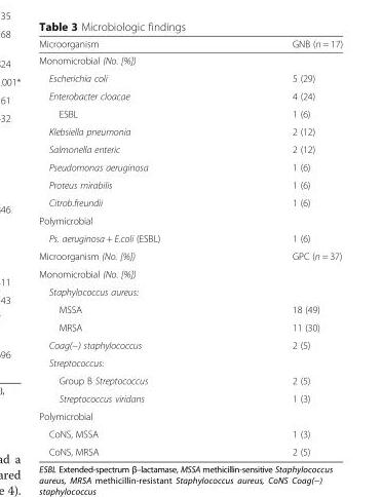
<table><thead><tr><td>Microorganism</td><td>GNB (n = 17)</td></tr></thead><tbody><tr><td colspan="2">Monomicrobial (No. [%])</td></tr><tr><td>Escherichia coli</td><td>5 (29)</td></tr><tr><td>Enterobacter cloacae</td><td>4 (24)</td></tr><tr><td>ESBL</td><td>1 (6)</td></tr><tr><td>Klebsiella pneumonia</td><td>2 (12)</td></tr><tr><td>Salmonella enteric</td><td>2 (12)</td></tr><tr><td>Pseudomonas aeruginosa</td><td>1 (6)</td></tr><tr><td>Proteus mirabilis</td><td>1 (6)</td></tr><tr><td>Citrob.freundii</td><td>1 (6)</td></tr><tr><td colspan="2">Polymicrobial</td></tr><tr><td>Ps. aeruginosa + E.coli (ESBL)</td><td>1 (6)</td></tr><tr><td>Microorganism (No. [%])</td><td>GPC (n = 37)</td></tr><tr><td colspan="2">Monomicrobial (No. [%])</td></tr><tr><td colspan="2">Staphylococcus aureus:</td></tr><tr><td>MSSA</td><td>18 (49)</td></tr><tr><td>MRSA</td><td>11 (30)</td></tr><tr><td>Coag(−) staphylococcus</td><td>2 (5)</td></tr><tr><td colspan="2">Streptococcus:</td></tr><tr><td>Group B Streptococcus</td><td>2 (5)</td></tr><tr><td>Streptococcus viridans</td><td>1 (3)</td></tr><tr><td colspan="2">Polymicrobial</td></tr><tr><td>CoNS, MSSA</td><td>1 (3)</td></tr><tr><td>CoNS, MRSA</td><td>2 (5)</td></tr></tbody></table>